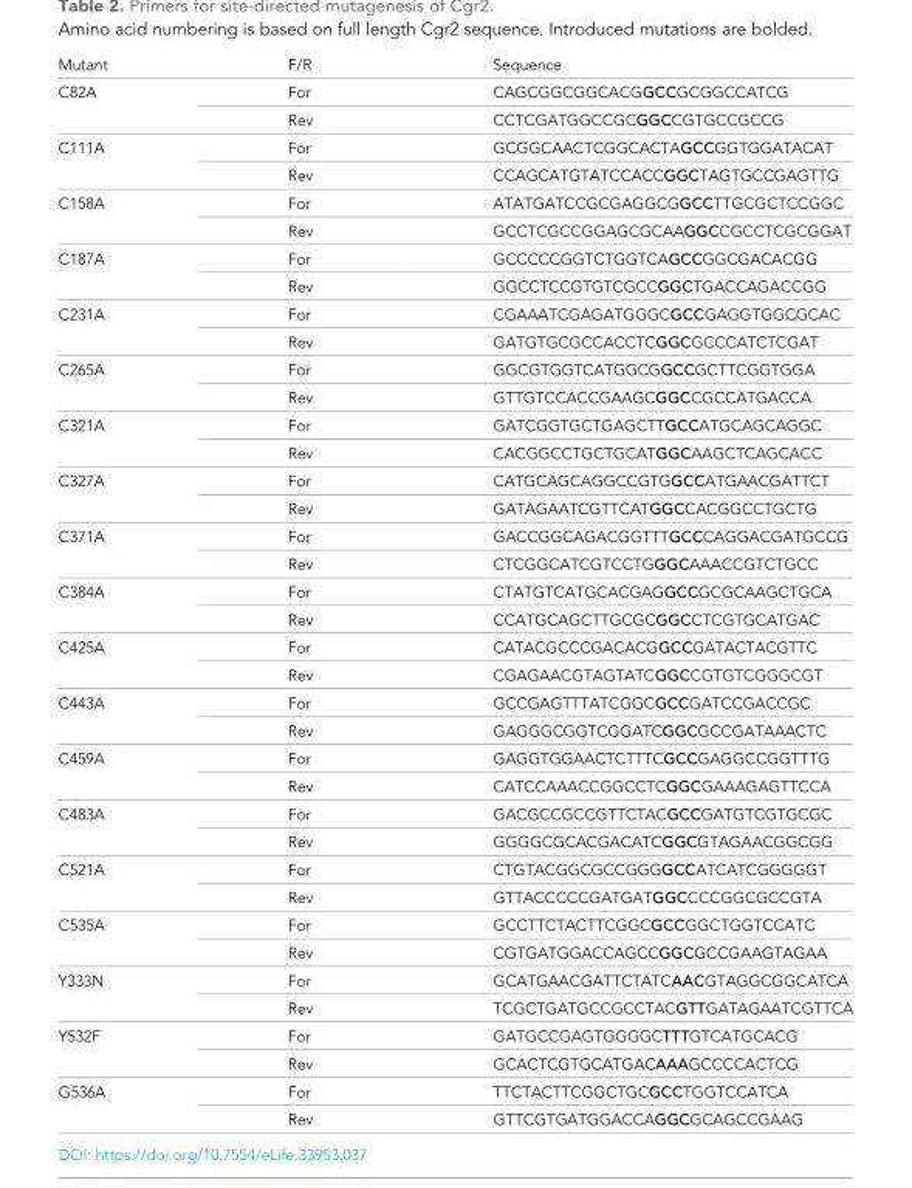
<table><tbody><tr><td>Mutant</td><td>F/R</td><td>Sequence</td></tr><tr><td rowspan="2">C82A</td><td>For</td><td>CAGCGGCGGCACGGCCGCGGCCATCG</td></tr><tr><td>Rev</td><td>CCTCGATGGCCGCGGCCGTGCCGCCG</td></tr><tr><td rowspan="2">C111A</td><td>For</td><td>GCGGCAACTCGGCACTAGCCGGTGGATACAT</td></tr><tr><td>Rev</td><td>CCAGCATGTATCCACCGGCTAGTGCCGAGTTG</td></tr><tr><td rowspan="2">C158A</td><td>For</td><td>ATATGATCCGCGAGGCGGCCTTGCGCTCCGGC</td></tr><tr><td>Rev</td><td>GCCTCGCCGGAGCGCAAGGCCGCCTCGCGGAT</td></tr><tr><td rowspan="2">C187A</td><td>For</td><td>GCCCCCGGTCTGGTCAGCCGGCGACACGG</td></tr><tr><td>Rev</td><td>GGCCTCCGTGTCGCCGGCTGACCAGACCGG</td></tr><tr><td rowspan="2">C231A</td><td>For</td><td>CGAAATCGAGATGGGCGCCGAGGTGGCGCAC</td></tr><tr><td>Rev</td><td>GATGTGCGCCACCTCGGCGCCCATCTCGAT</td></tr><tr><td rowspan="2">C265A</td><td>For</td><td>GGCGTGGTCATGGCGGCCGCTTCGGTGGA</td></tr><tr><td>Rev</td><td>GTTGTCCACCGAAGCGGCCGCCATGACCA</td></tr><tr><td rowspan="2">C321A</td><td>For</td><td>GATCGGTGCTGAGCTTGCCATGCAGCAGGC</td></tr><tr><td>Rev</td><td>CACGGCCTGCTGCATGGCAAGCTCAGCACC</td></tr><tr><td rowspan="2">C327A</td><td>For</td><td>CATGCAGCAGGCCGTGGCCATGAACGATTCT</td></tr><tr><td>Rev</td><td>GATAGAATCGTTCATGGCCACGGCCTGCTG</td></tr><tr><td rowspan="2">C371A</td><td>For</td><td>GACCGGCAGACGGTTTGCCCAGGACGATGCCG</td></tr><tr><td>Rev</td><td>CTCGGCATCGTCCTGGGCAAACCGTCTGCC</td></tr><tr><td rowspan="2">C384A</td><td>For</td><td>CTATGTCATGCACGAGGCCGCGCAAGCTGCA</td></tr><tr><td>Rev</td><td>CCATGCAGCTTGCGCGGCCTCGTGCATGAC</td></tr><tr><td rowspan="2">C425A</td><td>For</td><td>CATACGCCCGACACGGCCGATACTACGTTC</td></tr><tr><td>Rev</td><td>CGAGAACGTAGTATCGGCCGTGTCGGGCGT</td></tr><tr><td rowspan="2">C443A</td><td>For</td><td>GCCGAGTTTATCGGCGCCGATCCGACCGC</td></tr><tr><td>Rev</td><td>GAGGGCGGTCGGATCGGCGCCGATAAACTC</td></tr><tr><td rowspan="2">C459A</td><td>For</td><td>GAGGTGGAACTCTTTCGCCGAGGCCGGTTTG</td></tr><tr><td>Rev</td><td>CATCCAAACCGGCCTCGGCGAAAGAGTTCCA</td></tr><tr><td rowspan="2">C483A</td><td>For</td><td>GACGCCGCCGTTCTACGCCGATGTCGTGCGC</td></tr><tr><td>Rev</td><td>GGGGCGCACGACATCGGCGTAGAACGGCGG</td></tr><tr><td rowspan="2">C521A</td><td>For</td><td>CTGTACGGCGCCGGGGCCATCATCGGGGGT</td></tr><tr><td>Rev</td><td>GTTACCCCCGATGATGGCCCCGGCGCCGTA</td></tr><tr><td rowspan="2">C535A</td><td>For</td><td>GCCTTCTACTTCGGCGCCGGCTGGTCCATC</td></tr><tr><td>Rev</td><td>CGTGATGGACCAGCCGGCGCCGAAGTAGAA</td></tr><tr><td rowspan="2">Y333N</td><td>For</td><td>GCATGAACGATTCTATCAACGTAGGCGGCATCA</td></tr><tr><td>Rev</td><td>TCGCTGATGCCGCCTACGTTGATAGAATCGTTCA</td></tr><tr><td rowspan="2">Y532F</td><td>For</td><td>GATGCCGAGTGGGGCTTTGTCATGCACG</td></tr><tr><td>Rev</td><td>GCACTCGTGCATGACAAAGCCCCACTCG</td></tr><tr><td rowspan="2">G536A</td><td>For</td><td>TTCTACTTCGGCTGCGCCTGGTCCATCA</td></tr><tr><td>Rev</td><td>GTTCGTGATGGACCAGGCGCAGCCGAAG</td></tr></tbody></table>